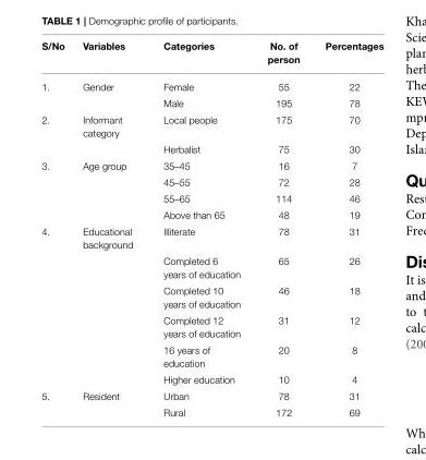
<table><thead><tr><td>S/No</td><td>Variables</td><td>Categories</td><td>No. of person</td><td>Percentages</td></tr></thead><tbody><tr><td rowspan="2">1.</td><td>Gender</td><td>Female</td><td>55</td><td>22</td></tr><tr><td></td><td>Male</td><td>195</td><td>78</td></tr><tr><td rowspan="2">2.</td><td>Informant category</td><td>Local people</td><td>175</td><td>70</td></tr><tr><td></td><td>Herbalist</td><td>75</td><td>30</td></tr><tr><td rowspan="4">3.</td><td>Age group</td><td>35–45</td><td>16</td><td>7</td></tr><tr><td></td><td>45–55</td><td>72</td><td>28</td></tr><tr><td></td><td>55–65</td><td>114</td><td>46</td></tr><tr><td></td><td>Above than 65</td><td>48</td><td>19</td></tr><tr><td rowspan="6">4.</td><td>Educational background</td><td>Illiterate</td><td>78</td><td>31</td></tr><tr><td></td><td>Completed 6 years of education</td><td>65</td><td>26</td></tr><tr><td></td><td>Completed 10 years of education</td><td>46</td><td>18</td></tr><tr><td></td><td>Completed 12 years of education</td><td>31</td><td>12</td></tr><tr><td></td><td>16 years of education</td><td>20</td><td>8</td></tr><tr><td></td><td>Higher education</td><td>10</td><td>4</td></tr><tr><td rowspan="2">5.</td><td>Resident</td><td>Urban</td><td>78</td><td>31</td></tr><tr><td></td><td>Rural</td><td>172</td><td>69</td></tr></tbody></table>